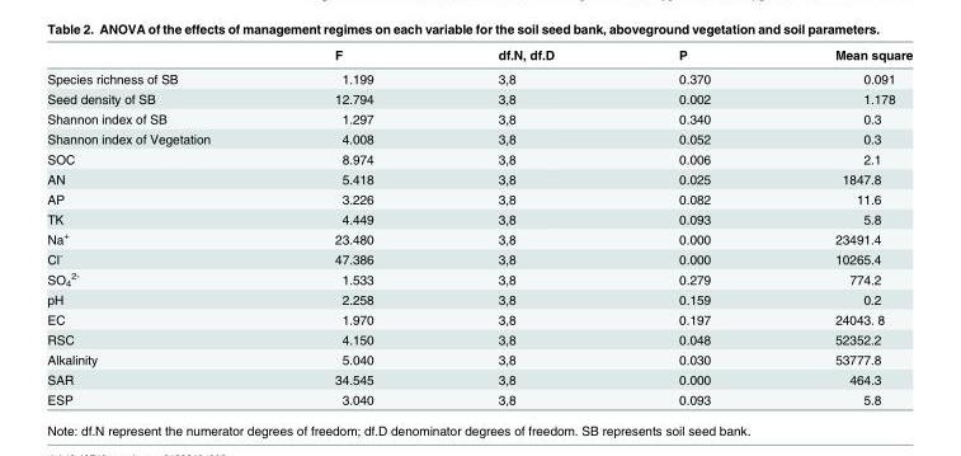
<table><thead><tr><td></td><td>F</td><td>df.N, df.D</td><td>P</td><td>Mean square</td></tr></thead><tbody><tr><td>Species richness of SB</td><td>1.199</td><td>3,8</td><td>0.370</td><td>0.091</td></tr><tr><td>Seed density of SB</td><td>12.794</td><td>3,8</td><td>0.002</td><td>1.178</td></tr><tr><td>Shannon index of SB</td><td>1.297</td><td>3,8</td><td>0.340</td><td>0.3</td></tr><tr><td>Shannon index of Vegetation</td><td>4.008</td><td>3,8</td><td>0.052</td><td>0.3</td></tr><tr><td>SOC</td><td>8.974</td><td>3,8</td><td>0.006</td><td>2.1</td></tr><tr><td>AN</td><td>5.418</td><td>3,8</td><td>0.025</td><td>1847.8</td></tr><tr><td>AP</td><td>3.226</td><td>3,8</td><td>0.082</td><td>11.6</td></tr><tr><td>TK</td><td>4.449</td><td>3,8</td><td>0.093</td><td>5.8</td></tr><tr><td>Na<sup>+</sup></td><td>23.480</td><td>3,8</td><td>0.000</td><td>23491.4</td></tr><tr><td>Cl<sup>-</sup></td><td>47.386</td><td>3,8</td><td>0.000</td><td>10265.4</td></tr><tr><td>SO<sub>4</sub> <sup>2-</sup></td><td>1.533</td><td>3,8</td><td>0.279</td><td>774.2</td></tr><tr><td>pH</td><td>2.258</td><td>3,8</td><td>0.159</td><td>0.2</td></tr><tr><td>EC</td><td>1.970</td><td>3,8</td><td>0.197</td><td>24043. 8</td></tr><tr><td>RSC</td><td>4.150</td><td>3,8</td><td>0.048</td><td>52352.2</td></tr><tr><td>Alkalinity</td><td>5.040</td><td>3,8</td><td>0.030</td><td>53777.8</td></tr><tr><td>SAR</td><td>34.545</td><td>3,8</td><td>0.000</td><td>464.3</td></tr><tr><td>ESP</td><td>3.040</td><td>3,8</td><td>0.093</td><td>5.8</td></tr></tbody></table>